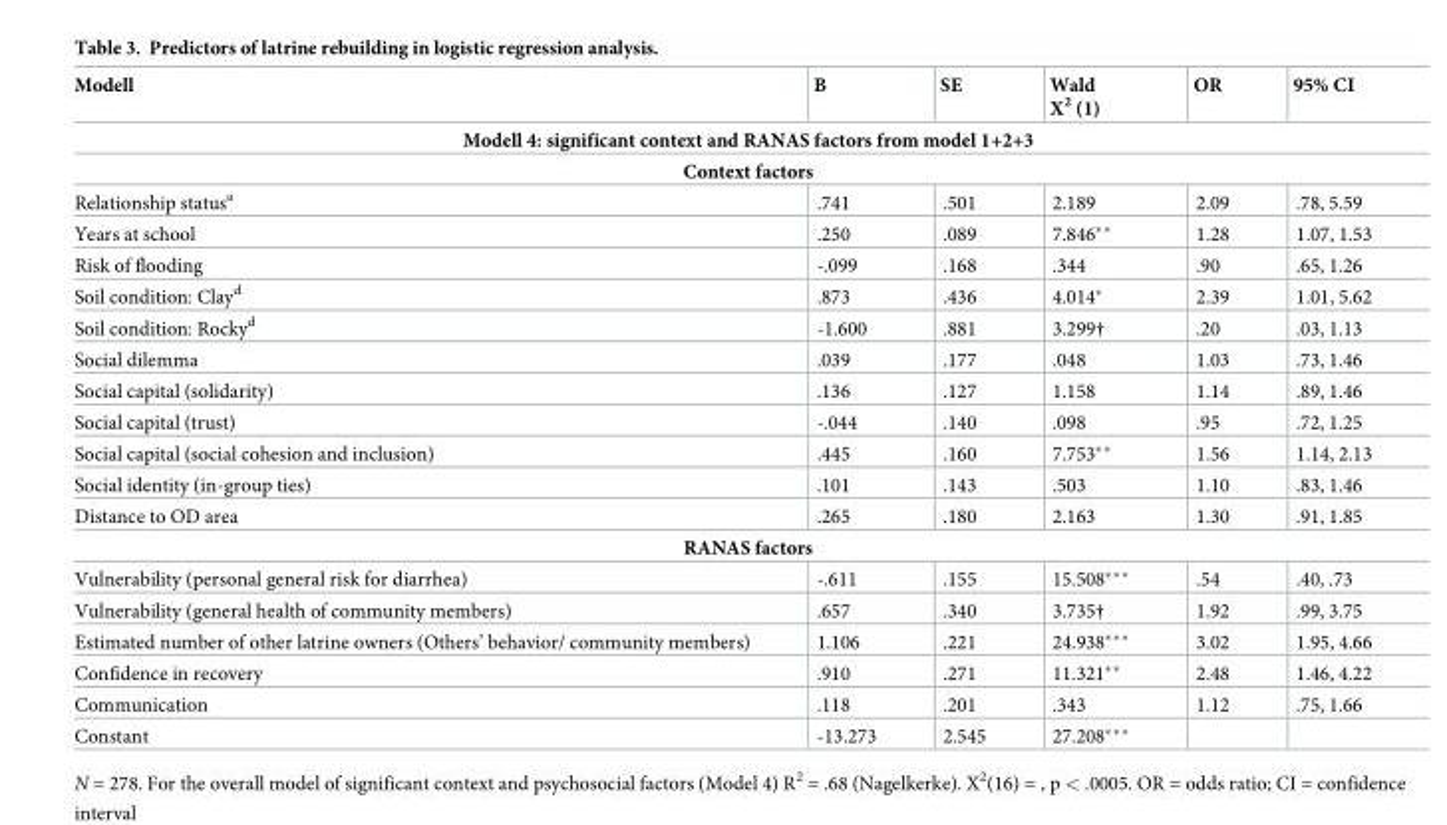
<table><thead><tr><td>Modell</td><td>B</td><td>SE</td><td>Wald X<sup>2</sup> (1)</td><td>OR</td><td>95% CI</td></tr></thead><tbody><tr><td colspan="6">Modell 4: significant context and RANAS factors from model 1+2+3</td></tr><tr><td colspan="6">Context factors</td></tr><tr><td>Relationship status<sup>a</sup></td><td>.741</td><td>.501</td><td>2.189</td><td>2.09</td><td>.78, 5.59</td></tr><tr><td>Years at school</td><td>.250</td><td>.089</td><td>7.846**</td><td>1.28</td><td>1.07, 1.53</td></tr><tr><td>Risk of flooding</td><td>-.099</td><td>.168</td><td>.344</td><td>.90</td><td>.65, 1.26</td></tr><tr><td>Soil condition: Clay<sup>d</sup></td><td>.873</td><td>.436</td><td>4.014*</td><td>2.39</td><td>1.01, 5.62</td></tr><tr><td>Soil condition: Rocky<sup>d</sup></td><td>-1.600</td><td>.881</td><td>3.299†</td><td>.20</td><td>.03, 1.13</td></tr><tr><td>Social dilemma</td><td>.039</td><td>.177</td><td>.048</td><td>1.03</td><td>.73, 1.46</td></tr><tr><td>Social capital (solidarity)</td><td>.136</td><td>.127</td><td>1.158</td><td>1.14</td><td>.89, 1.46</td></tr><tr><td>Social capital (trust)</td><td>-.044</td><td>.140</td><td>.098</td><td>.95</td><td>.72, 1.25</td></tr><tr><td>Social capital (social cohesion and inclusion)</td><td>.445</td><td>.160</td><td>7.753**</td><td>1.56</td><td>1.14, 2.13</td></tr><tr><td>Social identity (in-group ties)</td><td>.101</td><td>.143</td><td>.503</td><td>1.10</td><td>.83, 1.46</td></tr><tr><td>Distance to OD area</td><td>.265</td><td>.180</td><td>2.163</td><td>1.30</td><td>.91, 1.85</td></tr><tr><td colspan="6">RANAS factors</td></tr><tr><td>Vulnerability (personal general risk for diarrhea)</td><td>-.611</td><td>.155</td><td>15.508***</td><td>.54</td><td>.40, .73</td></tr><tr><td>Vulnerability (general health of community members)</td><td>.657</td><td>.340</td><td>3.735†</td><td>1.92</td><td>.99, 3.75</td></tr><tr><td>Estimated number of other latrine owners (Others’ behavior/ community members)</td><td>1.106</td><td>.221</td><td>24.938***</td><td>3.02</td><td>1.95, 4.66</td></tr><tr><td>Confidence in recovery</td><td>.910</td><td>.271</td><td>11.321**</td><td>2.48</td><td>1.46, 4.22</td></tr><tr><td>Communication</td><td>.118</td><td>.201</td><td>.343</td><td>1.12</td><td>.75, 1.66</td></tr><tr><td>Constant</td><td>-13.273</td><td>2.545</td><td>27.208***</td><td></td><td></td></tr></tbody></table>